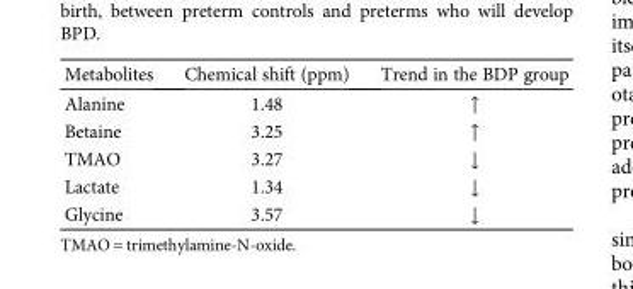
<table><thead><tr><td>Metabolites</td><td>Chemical shift (ppm)</td><td>Trend in the BDP group</td></tr></thead><tbody><tr><td>Alanine</td><td>1.48</td><td>↑</td></tr><tr><td>Betaine</td><td>3.25</td><td>↑</td></tr><tr><td>TMAO</td><td>3.27</td><td>↓</td></tr><tr><td>Lactate</td><td>1.34</td><td>↓</td></tr><tr><td>Glycine</td><td>3.57</td><td>↓</td></tr></tbody></table>